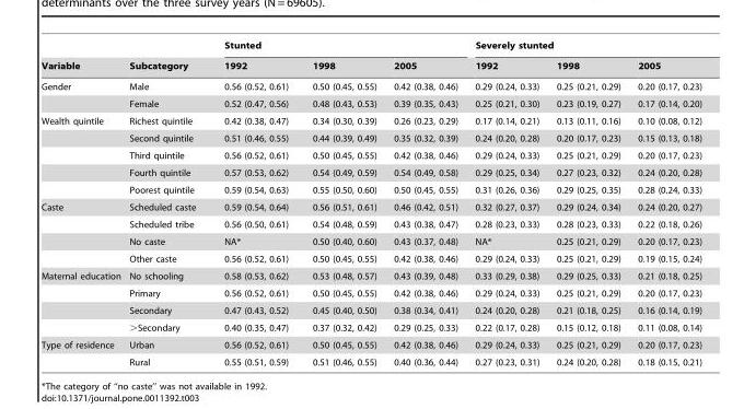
<table><thead><tr><td rowspan="2">Variable</td><td rowspan="2">Subcategory</td><td colspan="3">Stunted</td><td colspan="3">Severely stunted</td></tr><tr><td>1992</td><td>1998</td><td>2005</td><td>1992</td><td>1998</td><td>2005</td></tr></thead><tbody><tr><td rowspan="2">Gender</td><td>Male</td><td>0.56 (0.52, 0.61)</td><td>0.50 (0.45, 0.55)</td><td>0.42 (0.38, 0.46)</td><td>0.29 (0.24, 0.33)</td><td>0.25 (0.21, 0.29)</td><td>0.20 (0.17, 0.23)</td></tr><tr><td>Female</td><td>0.52 (0.47, 0.56)</td><td>0.48 (0.43, 0.53)</td><td>0.39 (0.35, 0.43)</td><td>0.25 (0.21, 0.30)</td><td>0.23 (0.19, 0.27)</td><td>0.17 (0.14, 0.20)</td></tr><tr><td rowspan="5">Wealth quintile</td><td>Richest quintile</td><td>0.42 (0.38, 0.47)</td><td>0.34 (0.30, 0.39)</td><td>0.26 (0.23, 0.29)</td><td>0.17 (0.14, 0.21)</td><td>0.13 (0.11, 0.16)</td><td>0.10 (0.08, 0.12)</td></tr><tr><td>Second quintile</td><td>0.51 (0.46, 0.55)</td><td>0.44 (0.39, 0.49)</td><td>0.35 (0.32, 0.39)</td><td>0.24 (0.20, 0.28)</td><td>0.20 (0.17, 0.23)</td><td>0.15 (0.13, 0.18)</td></tr><tr><td>Third quintile</td><td>0.56 (0.52, 0.61)</td><td>0.50 (0.45, 0.55)</td><td>0.42 (0.38, 0.46)</td><td>0.29 (0.24, 0.33)</td><td>0.25 (0.21, 0.29)</td><td>0.20 (0.17, 0.23)</td></tr><tr><td>Fourth quintile</td><td>0.57 (0.53, 0.62)</td><td>0.54 (0.49, 0.59)</td><td>0.54 (0.49, 0.58)</td><td>0.29 (0.25, 0.34)</td><td>0.27 (0.23, 0.32)</td><td>0.24 (0.20, 0.28)</td></tr><tr><td>Poorest quintile</td><td>0.59 (0.54, 0.63)</td><td>0.55 (0.50, 0.60)</td><td>0.50 (0.45, 0.55)</td><td>0.31 (0.26, 0.36)</td><td>0.29 (0.25, 0.35)</td><td>0.28 (0.24, 0.33)</td></tr><tr><td rowspan="4">Caste</td><td>Scheduled caste</td><td>0.59 (0.54, 0.64)</td><td>0.56 (0.51, 0.61)</td><td>0.46 (0.42, 0.51)</td><td>0.32 (0.27, 0.37)</td><td>0.29 (0.24, 0.34)</td><td>0.24 (0.20, 0.27)</td></tr><tr><td>Scheduled tribe</td><td>0.56 (0.50, 0.61)</td><td>0.54 (0.48, 0.59)</td><td>0.43 (0.38, 0.47)</td><td>0.28 (0.23, 0.33)</td><td>0.28 (0.23, 0.33)</td><td>0.22 (0.18, 0.26)</td></tr><tr><td>No caste</td><td>NA*</td><td>0.50 (0.40, 0.60)</td><td>0.43 (0.37, 0.48)</td><td>NA*</td><td>0.25 (0.21, 0.29)</td><td>0.20 (0.17, 0.23)</td></tr><tr><td>Other caste</td><td>0.56 (0.52, 0.61)</td><td>0.50 (0.45, 0.55)</td><td>0.42 (0.38, 0.46)</td><td>0.29 (0.24, 0.33)</td><td>0.25 (0.21, 0.29)</td><td>0.19 (0.15, 0.24)</td></tr><tr><td rowspan="4">Maternal education</td><td>No schooling</td><td>0.58 (0.53, 0.62)</td><td>0.53 (0.48, 0.57)</td><td>0.43 (0.39, 0.48)</td><td>0.33 (0.29, 0.38)</td><td>0.29 (0.25, 0.33)</td><td>0.21 (0.18, 0.25)</td></tr><tr><td>Primary</td><td>0.56 (0.52, 0.61)</td><td>0.50 (0.45, 0.55)</td><td>0.42 (0.38, 0.46)</td><td>0.29 (0.24, 0.33)</td><td>0.25 (0.21, 0.29)</td><td>0.20 (0.17, 0.23)</td></tr><tr><td>Secondary</td><td>0.47 (0.43, 0.52)</td><td>0.45 (0.40, 0.50)</td><td>0.38 (0.34, 0.41)</td><td>0.24 (0.20, 0.28)</td><td>0.21 (0.18, 0.25)</td><td>0.16 (0.14, 0.19)</td></tr><tr><td>&gt;Secondary</td><td>0.40 (0.35, 0.47)</td><td>0.37 (0.32, 0.42)</td><td>0.29 (0.25, 0.33)</td><td>0.22 (0.17, 0.28)</td><td>0.15 (0.12, 0.18)</td><td>0.11 (0.08, 0.14)</td></tr><tr><td rowspan="2">Type of residence</td><td>Urban</td><td>0.56 (0.52, 0.61)</td><td>0.50 (0.45, 0.55)</td><td>0.42 (0.38, 0.46)</td><td>0.29 (0.24, 0.33)</td><td>0.25 (0.21, 0.29)</td><td>0.20 (0.17, 0.23)</td></tr><tr><td>Rural</td><td>0.55 (0.51, 0.59)</td><td>0.51 (0.46, 0.55)</td><td>0.40 (0.36, 0.44)</td><td>0.27 (0.23, 0.31)</td><td>0.24 (0.20, 0.28)</td><td>0.18 (0.15, 0.21)</td></tr></tbody></table>